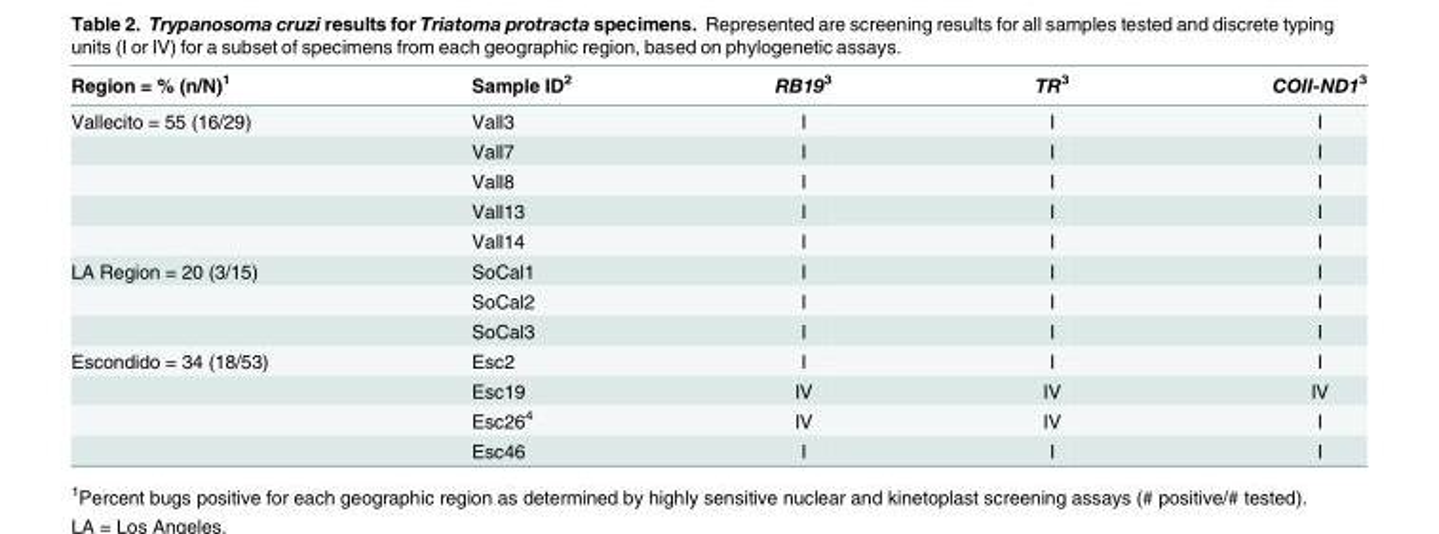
<table><thead><tr><td>Region = % (n/N)<sup>1</sup></td><td>Sample ID<sup>2</sup></td><td>RB19<sup>3</sup></td><td>TR<sup>3</sup></td><td>COII-ND1<sup>3</sup></td></tr></thead><tbody><tr><td rowspan="5">Vallecito = 55 (16/29)</td><td>Vall3</td><td>I</td><td>I</td><td>I</td></tr><tr><td>Vall7</td><td>I</td><td>I</td><td>I</td></tr><tr><td>Vall8</td><td>I</td><td>I</td><td>I</td></tr><tr><td>Vall13</td><td>I</td><td>I</td><td>I</td></tr><tr><td>Vall14</td><td>I</td><td>I</td><td>I</td></tr><tr><td rowspan="3">LA Region = 20 (3/15)</td><td>SoCal1</td><td>I</td><td>I</td><td>I</td></tr><tr><td>SoCal2</td><td>I</td><td>I</td><td>I</td></tr><tr><td>SoCal3</td><td>I</td><td>I</td><td>I</td></tr><tr><td rowspan="4">Escondido = 34 (18/53)</td><td>Esc2</td><td>I</td><td>I</td><td>I</td></tr><tr><td>Esc19</td><td>IV</td><td>IV</td><td>IV</td></tr><tr><td>Esc26<sup>4</sup></td><td>IV</td><td>IV</td><td>I</td></tr><tr><td>Esc46</td><td>I</td><td>I</td><td>I</td></tr></tbody></table>